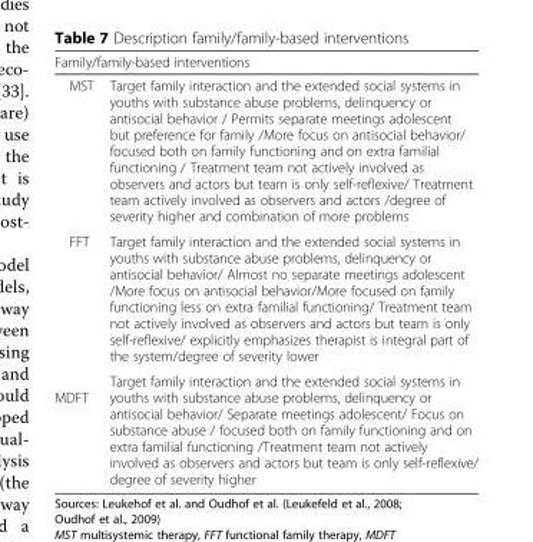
<table><thead><tr><td colspan="2">Family/family-based interventions</td></tr><tr><td>MST</td><td>Target family interaction and the extended social systems in youths with substance abuse problems, delinquency or antisocial behavior / Permits separate meetings adolescent but preference for family /More focus on antisocial behavior/ focused both on family functioning and on extra familial functioning / Treatment team not actively involved as observers and actors but team is only self-reflexive/ Treatment team actively involved as observers and actors /degree of severity higher and combination of more problems</td></tr></thead><tbody><tr><td>FFT</td><td>Target family interaction and the extended social systems in youths with substance abuse problems, delinquency or antisocial behavior/ Almost no separate meetings adolescent /More focus on antisocial behavior/More focused on family functioning less on extra familial functioning/ Treatment team not actively involved as observers and actors but team is only self-reflexive/ explicitly emphasizes therapist is integral part of the system/degree of severity lower</td></tr><tr><td>MDFT</td><td>Target family interaction and the extended social systems in youths with substance abuse problems, delinquency or antisocial behavior/ Separate meetings adolescent/ Focus on substance abuse / focused both on family functioning and on extra familial functioning /Treatment team not actively involved as observers and actors but team is only self-reflexive/ degree of severity higher</td></tr></tbody></table>